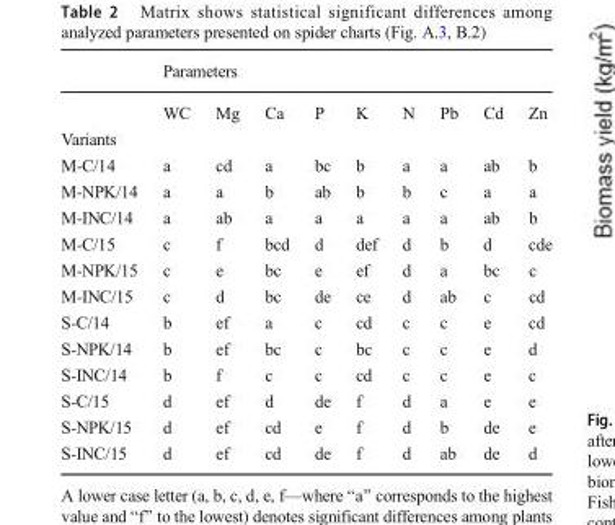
<table><thead><tr><td rowspan="2"></td><td colspan="9">Parameters</td></tr><tr><td>WC</td><td>Mg</td><td>Ca</td><td>P</td><td>K</td><td>N</td><td>Pb</td><td>Cd</td><td>Zn</td></tr></thead><tbody><tr><td colspan="10">Variants</td></tr><tr><td>M-C/14</td><td>a</td><td>cd</td><td>a</td><td>bc</td><td>b</td><td>a</td><td>a</td><td>ab</td><td>b</td></tr><tr><td>M-NPK/14</td><td>a</td><td>a</td><td>b</td><td>ab</td><td>b</td><td>b</td><td>c</td><td>a</td><td>a</td></tr><tr><td>M-INC/14</td><td>a</td><td>ab</td><td>a</td><td>a</td><td>a</td><td>a</td><td>a</td><td>ab</td><td>b</td></tr><tr><td>M-C/15</td><td>c</td><td>f</td><td>bcd</td><td>d</td><td>def</td><td>d</td><td>b</td><td>d</td><td>cde</td></tr><tr><td>M-NPK/15</td><td>c</td><td>e</td><td>bc</td><td>e</td><td>ef</td><td>d</td><td>a</td><td>bc</td><td>c</td></tr><tr><td>M-INC/15</td><td>c</td><td>d</td><td>bc</td><td>de</td><td>ce</td><td>d</td><td>ab</td><td>c</td><td>cd</td></tr><tr><td>S-C/14</td><td>b</td><td>ef</td><td>a</td><td>c</td><td>cd</td><td>c</td><td>c</td><td>e</td><td>cd</td></tr><tr><td>S-NPK/14</td><td>b</td><td>ef</td><td>bc</td><td>c</td><td>bc</td><td>c</td><td>c</td><td>e</td><td>d</td></tr><tr><td>S-INC/14</td><td>b</td><td>f</td><td>c</td><td>c</td><td>cd</td><td>c</td><td>c</td><td>e</td><td>c</td></tr><tr><td>S-C/15</td><td>d</td><td>ef</td><td>d</td><td>de</td><td>f</td><td>d</td><td>a</td><td>e</td><td>e</td></tr><tr><td>S-NPK/15</td><td>d</td><td>ef</td><td>cd</td><td>e</td><td>f</td><td>d</td><td>b</td><td>de</td><td>e</td></tr><tr><td>S-INC/15</td><td>d</td><td>ef</td><td>cd</td><td>de</td><td>f</td><td>d</td><td>ab</td><td>de</td><td>d</td></tr></tbody></table>